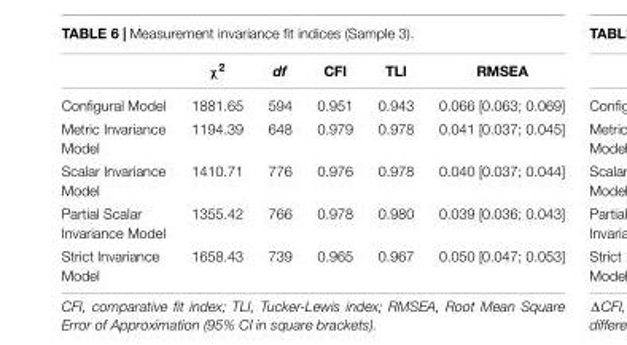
<table><thead><tr><td></td><td>χ<sup>2</sup></td><td>df</td><td>CFI</td><td>TLI</td><td>RMSEA</td></tr></thead><tbody><tr><td>Configural Model</td><td>1881.65</td><td>594</td><td>0.951</td><td>0.943</td><td>0.066 [0.063; 0.069]</td></tr><tr><td>Metric Invariance Model</td><td>1194.39</td><td>648</td><td>0.979</td><td>0.978</td><td>0.041 [0.037; 0.045]</td></tr><tr><td>Scalar Invariance Model</td><td>1410.71</td><td>776</td><td>0.976</td><td>0.978</td><td>0.040 [0.037; 0.044]</td></tr><tr><td>Partial Scalar Invariance Model</td><td>1355.42</td><td>766</td><td>0.978</td><td>0.980</td><td>0.039 [0.036; 0.043]</td></tr><tr><td>Strict Invariance Model</td><td>1658.43</td><td>739</td><td>0.965</td><td>0.967</td><td>0.050 [0.047; 0.053]</td></tr></tbody></table>